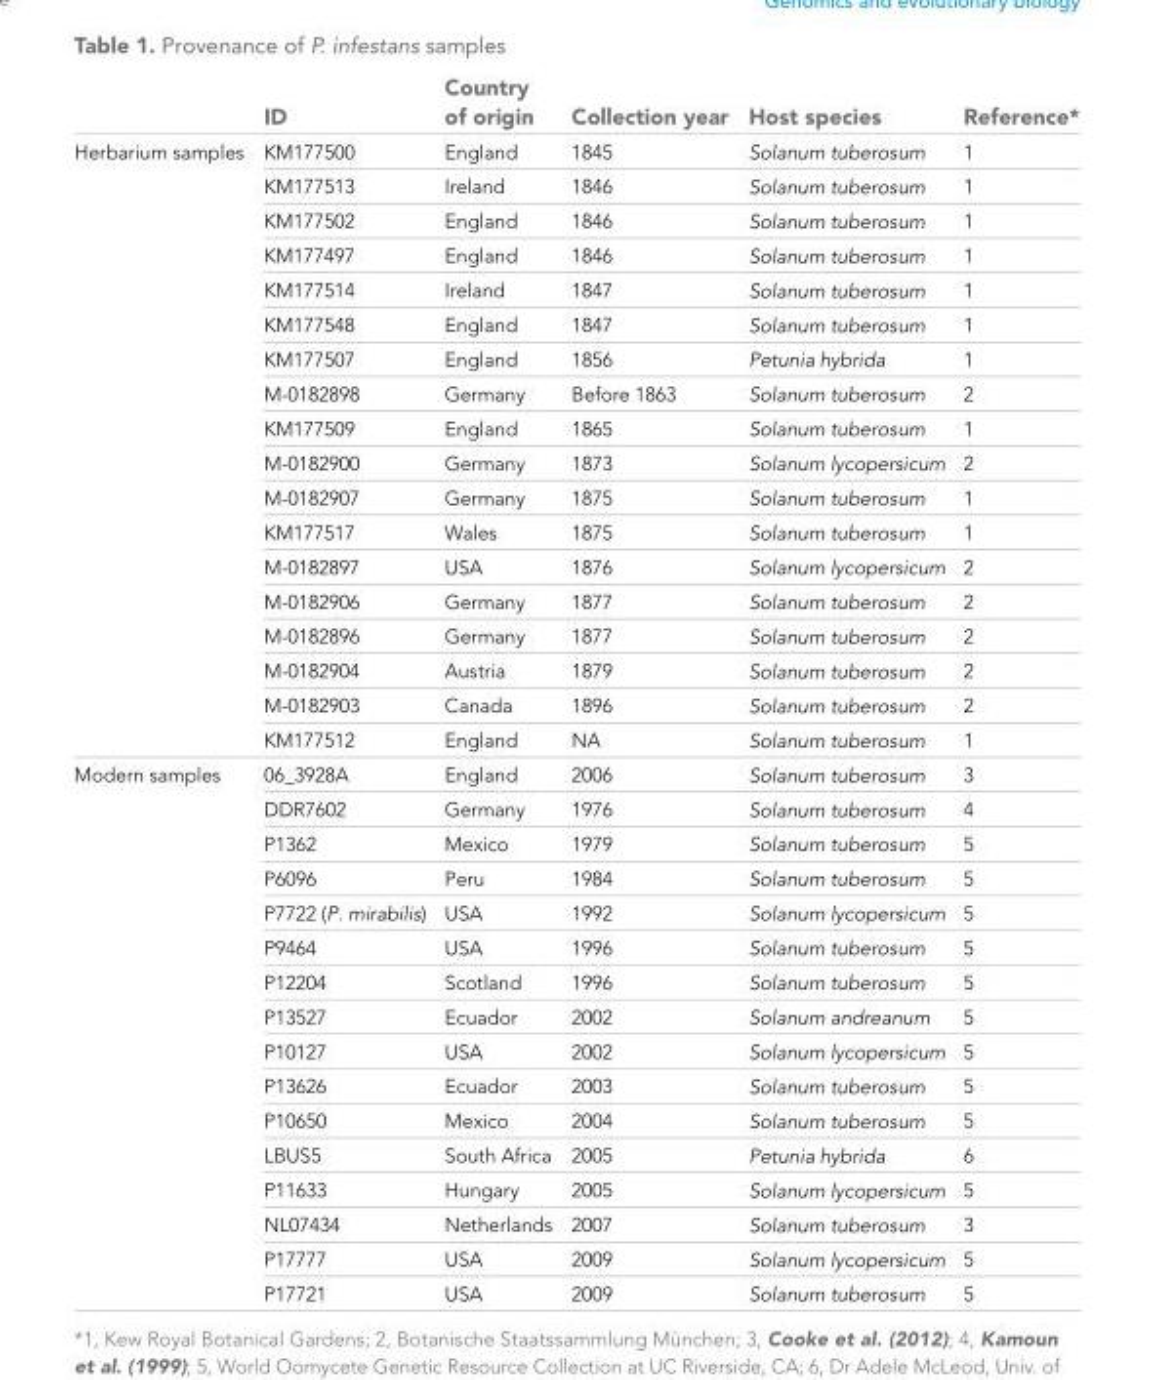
<table><thead><tr><td></td><td>ID</td><td>Country of origin</td><td>Collection year</td><td>Host species</td><td>Reference*</td></tr></thead><tbody><tr><td rowspan="18">Herbarium samples</td><td>KM177500</td><td>England</td><td>1845</td><td>Solanum tuberosum</td><td>1</td></tr><tr><td>KM177513</td><td>Ireland</td><td>1846</td><td>Solanum tuberosum</td><td>1</td></tr><tr><td>KM177502</td><td>England</td><td>1846</td><td>Solanum tuberosum</td><td>1</td></tr><tr><td>KM177497</td><td>England</td><td>1846</td><td>Solanum tuberosum</td><td>1</td></tr><tr><td>KM177514</td><td>Ireland</td><td>1847</td><td>Solanum tuberosum</td><td>1</td></tr><tr><td>KM177548</td><td>England</td><td>1847</td><td>Solanum tuberosum</td><td>1</td></tr><tr><td>KM177507</td><td>England</td><td>1856</td><td>Petunia hybrida</td><td>1</td></tr><tr><td>M-0182898</td><td>Germany</td><td>Before 1863</td><td>Solanum tuberosum</td><td>2</td></tr><tr><td>KM177509</td><td>England</td><td>1865</td><td>Solanum tuberosum</td><td>1</td></tr><tr><td>M-0182900</td><td>Germany</td><td>1873</td><td>Solanum lycopersicum</td><td>2</td></tr><tr><td>M-0182907</td><td>Germany</td><td>1875</td><td>Solanum tuberosum</td><td>1</td></tr><tr><td>KM177517</td><td>Wales</td><td>1875</td><td>Solanum tuberosum</td><td>1</td></tr><tr><td>M-0182897</td><td>USA</td><td>1876</td><td>Solanum lycopersicum</td><td>2</td></tr><tr><td>M-0182906</td><td>Germany</td><td>1877</td><td>Solanum tuberosum</td><td>2</td></tr><tr><td>M-0182896</td><td>Germany</td><td>1877</td><td>Solanum tuberosum</td><td>2</td></tr><tr><td>M-0182904</td><td>Austria</td><td>1879</td><td>Solanum tuberosum</td><td>2</td></tr><tr><td>M-0182903</td><td>Canada</td><td>1896</td><td>Solanum tuberosum</td><td>2</td></tr><tr><td>KM177512</td><td>England</td><td>NA</td><td>Solanum tuberosum</td><td>1</td></tr><tr><td rowspan="16">Modern samples</td><td>06_3928A</td><td>England</td><td>2006</td><td>Solanum tuberosum</td><td>3</td></tr><tr><td>DDR7602</td><td>Germany</td><td>1976</td><td>Solanum tuberosum</td><td>4</td></tr><tr><td>P1362</td><td>Mexico</td><td>1979</td><td>Solanum tuberosum</td><td>5</td></tr><tr><td>P6096</td><td>Peru</td><td>1984</td><td>Solanum tuberosum</td><td>5</td></tr><tr><td>P7722 (P. mirabilis)</td><td>USA</td><td>1992</td><td>Solanum lycopersicum</td><td>5</td></tr><tr><td>P9464</td><td>USA</td><td>1996</td><td>Solanum tuberosum</td><td>5</td></tr><tr><td>P12204</td><td>Scotland</td><td>1996</td><td>Solanum tuberosum</td><td>5</td></tr><tr><td>P13527</td><td>Ecuador</td><td>2002</td><td>Solanum andreanum</td><td>5</td></tr><tr><td>P10127</td><td>USA</td><td>2002</td><td>Solanum lycopersicum</td><td>5</td></tr><tr><td>P13626</td><td>Ecuador</td><td>2003</td><td>Solanum tuberosum</td><td>5</td></tr><tr><td>P10650</td><td>Mexico</td><td>2004</td><td>Solanum tuberosum</td><td>5</td></tr><tr><td>LBUS5</td><td>South Africa</td><td>2005</td><td>Petunia hybrida</td><td>6</td></tr><tr><td>P11633</td><td>Hungary</td><td>2005</td><td>Solanum lycopersicum</td><td>5</td></tr><tr><td>NL07434</td><td>Netherlands</td><td>2007</td><td>Solanum tuberosum</td><td>3</td></tr><tr><td>P17777</td><td>USA</td><td>2009</td><td>Solanum lycopersicum</td><td>5</td></tr><tr><td>P17721</td><td>USA</td><td>2009</td><td>Solanum tuberosum</td><td>5</td></tr></tbody></table>